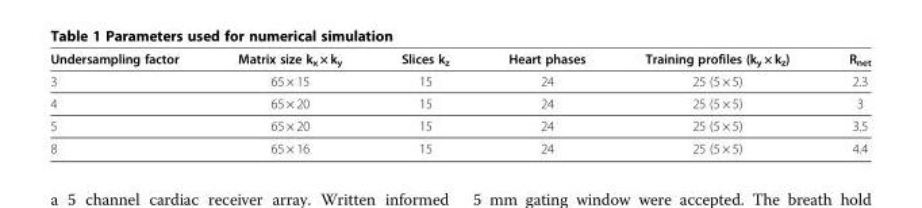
<table><thead><tr><td>Undersampling factor</td><td>Matrix size k<sub>x</sub> × k<sub>y</sub></td><td>Slices k<sub>z</sub></td><td>Heart phases</td><td>Training profiles (k<sub>y</sub> × k<sub>z</sub>)</td><td>R<sub>net</sub></td></tr></thead><tbody><tr><td>3</td><td>65 × 15</td><td>15</td><td>24</td><td>25 (5 × 5)</td><td>2.3</td></tr><tr><td>4</td><td>65 × 20</td><td>15</td><td>24</td><td>25 (5 × 5)</td><td>3</td></tr><tr><td>5</td><td>65 × 20</td><td>15</td><td>24</td><td>25 (5 × 5)</td><td>3.5</td></tr><tr><td>8</td><td>65 × 16</td><td>15</td><td>24</td><td>25 (5 × 5)</td><td>4.4</td></tr></tbody></table>